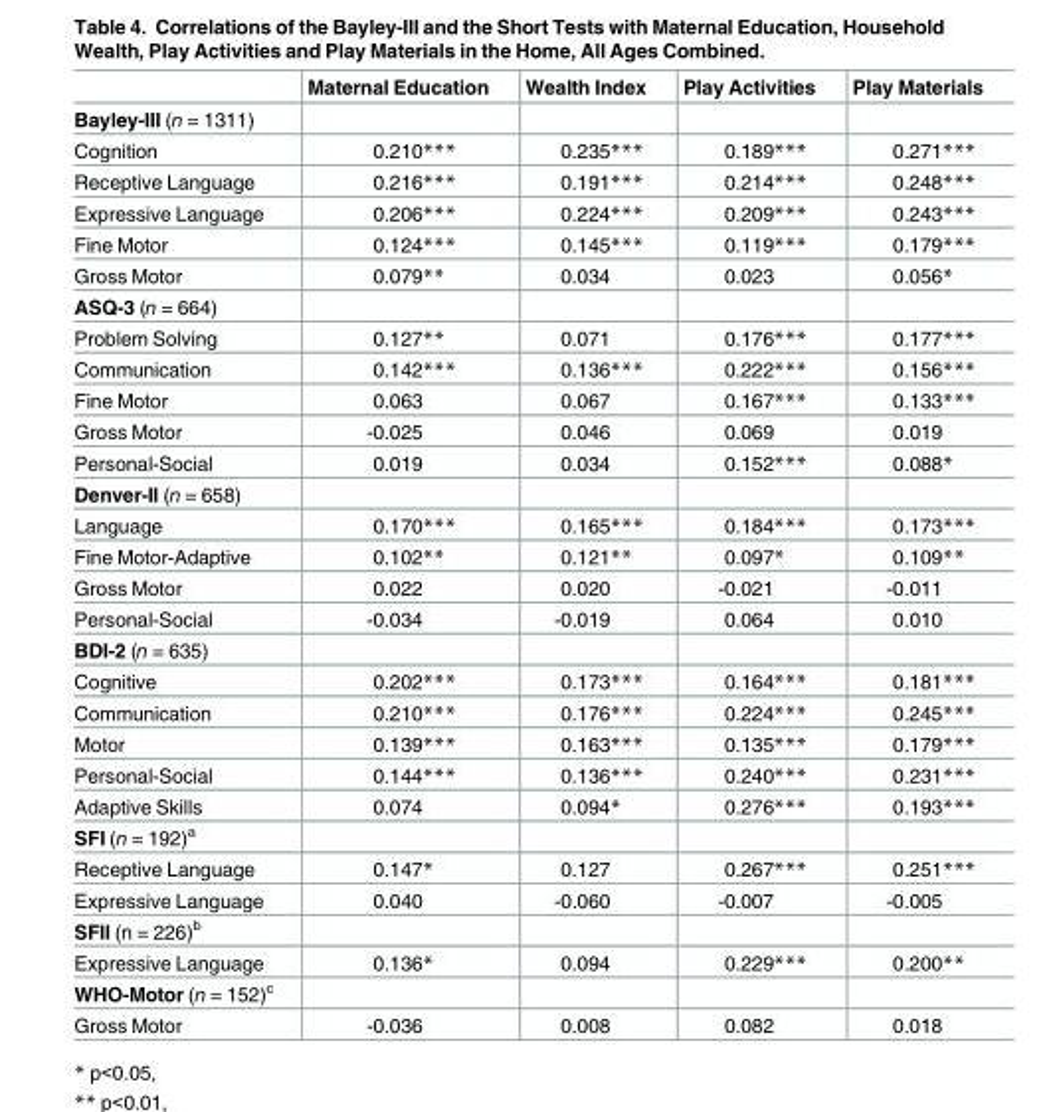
<table><thead><tr><td></td><td>Maternal Education</td><td>Wealth Index</td><td>Play Activities</td><td>Play Materials</td></tr></thead><tbody><tr><td colspan="5">Bayley-III (n = 1311)</td></tr><tr><td>Cognition</td><td>0.210***</td><td>0.235***</td><td>0.189***</td><td>0.271***</td></tr><tr><td>Receptive Language</td><td>0.216***</td><td>0.191***</td><td>0.214***</td><td>0.248***</td></tr><tr><td>Expressive Language</td><td>0.206***</td><td>0.224***</td><td>0.209***</td><td>0.243***</td></tr><tr><td>Fine Motor</td><td>0.124***</td><td>0.145***</td><td>0.119***</td><td>0.179***</td></tr><tr><td>Gross Motor</td><td>0.079**</td><td>0.034</td><td>0.023</td><td>0.056*</td></tr><tr><td colspan="5">ASQ-3 (n = 664)</td></tr><tr><td>Problem Solving</td><td>0.127**</td><td>0.071</td><td>0.176***</td><td>0.177***</td></tr><tr><td>Communication</td><td>0.142***</td><td>0.136***</td><td>0.222***</td><td>0.156***</td></tr><tr><td>Fine Motor</td><td>0.063</td><td>0.067</td><td>0.167***</td><td>0.133***</td></tr><tr><td>Gross Motor</td><td>-0.025</td><td>0.046</td><td>0.069</td><td>0.019</td></tr><tr><td>Personal-Social</td><td>0.019</td><td>0.034</td><td>0.152***</td><td>0.088*</td></tr><tr><td colspan="5">Denver-II (n = 658)</td></tr><tr><td>Language</td><td>0.170***</td><td>0.165***</td><td>0.184***</td><td>0.173***</td></tr><tr><td>Fine Motor-Adaptive</td><td>0.102**</td><td>0.121**</td><td>0.097*</td><td>0.109**</td></tr><tr><td>Gross Motor</td><td>0.022</td><td>0.020</td><td>-0.021</td><td>-0.011</td></tr><tr><td>Personal-Social</td><td>-0.034</td><td>-0.019</td><td>0.064</td><td>0.010</td></tr><tr><td colspan="5">BDI-2 (n = 635)</td></tr><tr><td>Cognitive</td><td>0.202***</td><td>0.173***</td><td>0.164***</td><td>0.181***</td></tr><tr><td>Communication</td><td>0.210***</td><td>0.176***</td><td>0.224***</td><td>0.245***</td></tr><tr><td>Motor</td><td>0.139***</td><td>0.163***</td><td>0.135***</td><td>0.179***</td></tr><tr><td>Personal-Social</td><td>0.144***</td><td>0.136***</td><td>0.240***</td><td>0.231***</td></tr><tr><td>Adaptive Skills</td><td>0.074</td><td>0.094*</td><td>0.276***</td><td>0.193***</td></tr><tr><td colspan="5">SFI (n = 192)<sup>a</sup></td></tr><tr><td>Receptive Language</td><td>0.147*</td><td>0.127</td><td>0.267***</td><td>0.251***</td></tr><tr><td>Expressive Language</td><td>0.040</td><td>-0.060</td><td>-0.007</td><td>-0.005</td></tr><tr><td colspan="5">SFII (n = 226)<sup>b</sup></td></tr><tr><td>Expressive Language</td><td>0.136*</td><td>0.094</td><td>0.229***</td><td>0.200**</td></tr><tr><td colspan="5">WHO-Motor (n = 152)<sup>c</sup></td></tr><tr><td>Gross Motor</td><td>-0.036</td><td>0.008</td><td>0.082</td><td>0.018</td></tr></tbody></table>